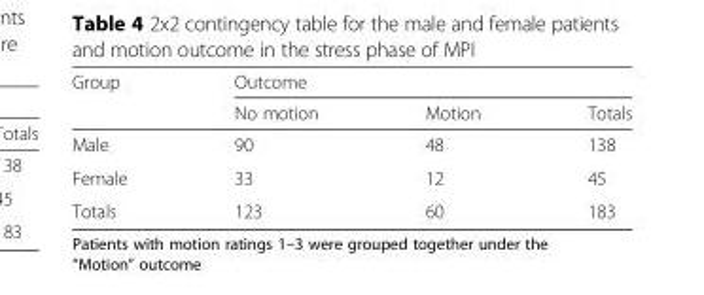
<table><thead><tr><td rowspan="2">Group</td><td colspan="3">Outcome</td></tr><tr><td>No motion</td><td>Motion</td><td>Totals</td></tr></thead><tbody><tr><td>Male</td><td>90</td><td>48</td><td>138</td></tr><tr><td>Female</td><td>33</td><td>12</td><td>45</td></tr><tr><td>Totals</td><td>123</td><td>60</td><td>183</td></tr></tbody></table>